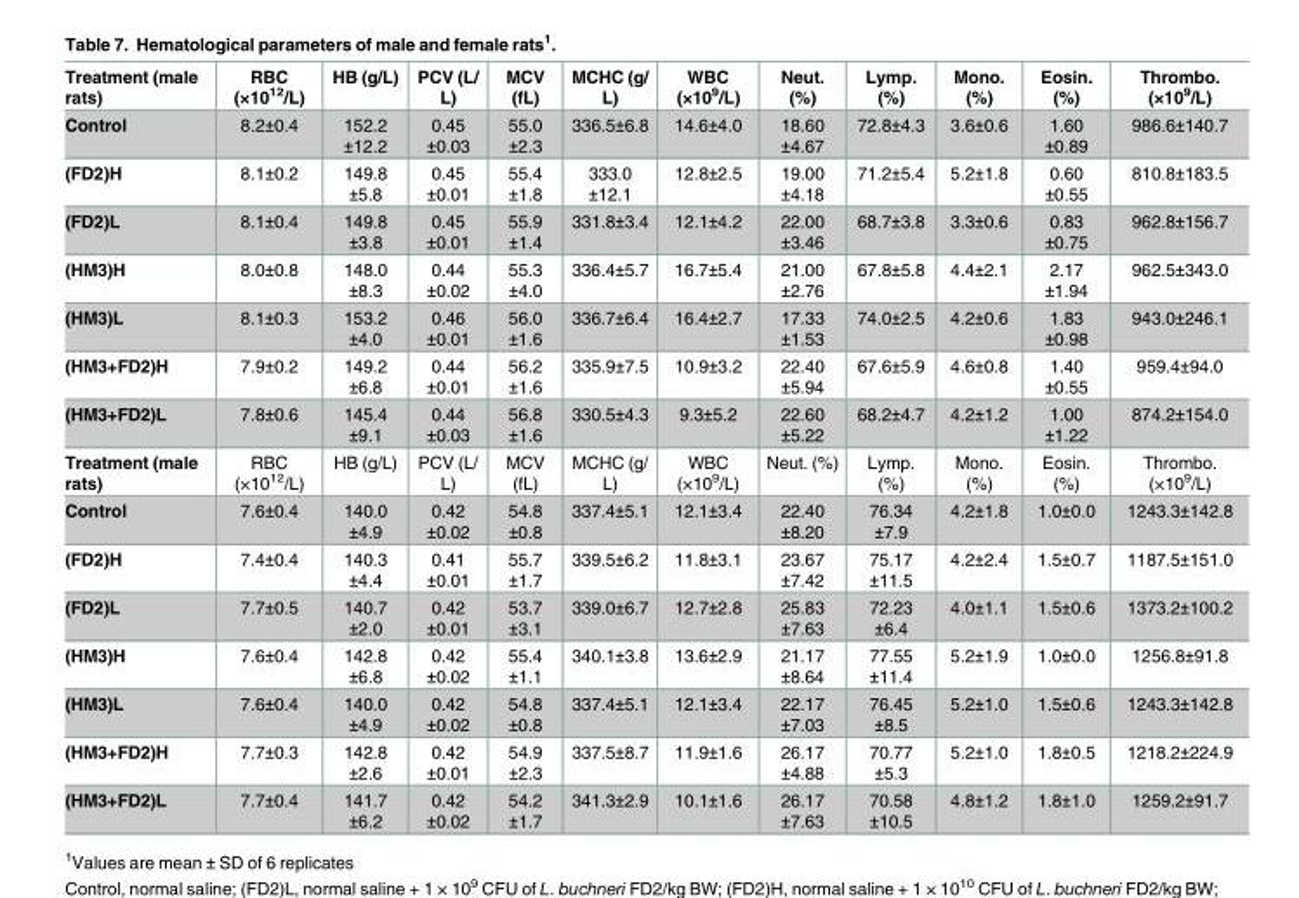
<table><tbody><tr><td>Treatment (male rats)</td><td>RBC (×10<sup>12</sup>/L)</td><td>HB (g/L)</td><td>PCV (L/ L)</td><td>MCV (fL)</td><td>MCHC (g/ L)</td><td>WBC (×10<sup>9</sup>/L)</td><td>Neut. (%)</td><td>Lymp. (%)</td><td>Mono. (%)</td><td>Eosin. (%)</td><td>Thrombo. (×10<sup>9</sup>/L)</td></tr><tr><td>Control</td><td>8.2±0.4</td><td>152.2 ±12.2</td><td>0.45 ±0.03</td><td>55.0 ±2.3</td><td>336.5±6.8</td><td>14.6±4.0</td><td>18.60 ±4.67</td><td>72.8±4.3</td><td>3.6±0.6</td><td>1.60 ±0.89</td><td>986.6±140.7</td></tr><tr><td>(FD2)H</td><td>8.1±0.2</td><td>149.8 ±5.8</td><td>0.45 ±0.01</td><td>55.4 ±1.8</td><td>333.0 ±12.1</td><td>12.8±2.5</td><td>19.00 ±4.18</td><td>71.2±5.4</td><td>5.2±1.8</td><td>0.60 ±0.55</td><td>810.8±183.5</td></tr><tr><td>(FD2)L</td><td>8.1±0.4</td><td>149.8 ±3.8</td><td>0.45 ±0.01</td><td>55.9 ±1.4</td><td>331.8±3.4</td><td>12.1±4.2</td><td>22.00 ±3.46</td><td>68.7±3.8</td><td>3.3±0.6</td><td>0.83 ±0.75</td><td>962.8±156.7</td></tr><tr><td>(HM3)H</td><td>8.0±0.8</td><td>148.0 ±8.3</td><td>0.44 ±0.02</td><td>55.3 ±4.0</td><td>336.4±5.7</td><td>16.7±5.4</td><td>21.00 ±2.76</td><td>67.8±5.8</td><td>4.4±2.1</td><td>2.17 ±1.94</td><td>962.5±343.0</td></tr><tr><td>(HM3)L</td><td>8.1±0.3</td><td>153.2 ±4.0</td><td>0.46 ±0.01</td><td>56.0 ±1.6</td><td>336.7±6.4</td><td>16.4±2.7</td><td>17.33 ±1.53</td><td>74.0±2.5</td><td>4.2±0.6</td><td>1.83 ±0.98</td><td>943.0±246.1</td></tr><tr><td>(HM3+FD2)H</td><td>7.9±0.2</td><td>149.2 ±6.8</td><td>0.44 ±0.01</td><td>56.2 ±1.6</td><td>335.9±7.5</td><td>10.9±3.2</td><td>22.40 ±5.94</td><td>67.6±5.9</td><td>4.6±0.8</td><td>1.40 ±0.55</td><td>959.4±94.0</td></tr><tr><td>(HM3+FD2)L</td><td>7.8±0.6</td><td>145.4 ±9.1</td><td>0.44 ±0.03</td><td>56.8 ±1.6</td><td>330.5±4.3</td><td>9.3±5.2</td><td>22.60 ±5.22</td><td>68.2±4.7</td><td>4.2±1.2</td><td>1.00 ±1.22</td><td>874.2±154.0</td></tr><tr><td>Treatment (male rats)</td><td>RBC (×10<sup>12</sup>/L)</td><td>HB (g/L)</td><td>PCV (L/ L)</td><td>MCV (fL)</td><td>MCHC (g/ L)</td><td>WBC (×10<sup>9</sup>/L)</td><td>Neut. (%)</td><td>Lymp. (%)</td><td>Mono. (%)</td><td>Eosin. (%)</td><td>Thrombo. (×10<sup>9</sup>/L)</td></tr><tr><td>Control</td><td>7.6±0.4</td><td>140.0 ±4.9</td><td>0.42 ±0.02</td><td>54.8 ±0.8</td><td>337.4±5.1</td><td>12.1±3.4</td><td>22.40 ±8.20</td><td>76.34 ±7.9</td><td>4.2±1.8</td><td>1.0±0.0</td><td>1243.3±142.8</td></tr><tr><td>(FD2)H</td><td>7.4±0.4</td><td>140.3 ±4.4</td><td>0.41 ±0.01</td><td>55.7 ±1.7</td><td>339.5±6.2</td><td>11.8±3.1</td><td>23.67 ±7.42</td><td>75.17 ±11.5</td><td>4.2±2.4</td><td>1.5±0.7</td><td>1187.5±151.0</td></tr><tr><td>(FD2)L</td><td>7.7±0.5</td><td>140.7 ±2.0</td><td>0.42 ±0.01</td><td>53.7 ±3.1</td><td>339.0±6.7</td><td>12.7±2.8</td><td>25.83 ±7.63</td><td>72.23 ±6.4</td><td>4.0±1.1</td><td>1.5±0.6</td><td>1373.2±100.2</td></tr><tr><td>(HM3)H</td><td>7.6±0.4</td><td>142.8 ±6.8</td><td>0.42 ±0.02</td><td>55.4 ±1.1</td><td>340.1±3.8</td><td>13.6±2.9</td><td>21.17 ±8.64</td><td>77.55 ±11.4</td><td>5.2±1.9</td><td>1.0±0.0</td><td>1256.8±91.8</td></tr><tr><td>(HM3)L</td><td>7.6±0.4</td><td>140.0 ±4.9</td><td>0.42 ±0.02</td><td>54.8 ±0.8</td><td>337.4±5.1</td><td>12.1±3.4</td><td>22.17 ±7.03</td><td>76.45 ±8.5</td><td>5.2±1.0</td><td>1.5±0.6</td><td>1243.3±142.8</td></tr><tr><td>(HM3+FD2)H</td><td>7.7±0.3</td><td>142.8 ±2.6</td><td>0.42 ±0.01</td><td>54.9 ±2.3</td><td>337.5±8.7</td><td>11.9±1.6</td><td>26.17 ±4.88</td><td>70.77 ±5.3</td><td>5.2±1.0</td><td>1.8±0.5</td><td>1218.2±224.9</td></tr><tr><td>(HM3+FD2)L</td><td>7.7±0.4</td><td>141.7 ±6.2</td><td>0.42 ±0.02</td><td>54.2 ±1.7</td><td>341.3±2.9</td><td>10.1±1.6</td><td>26.17 ±7.63</td><td>70.58 ±10.5</td><td>4.8±1.2</td><td>1.8±1.0</td><td>1259.2±91.7</td></tr></tbody></table>